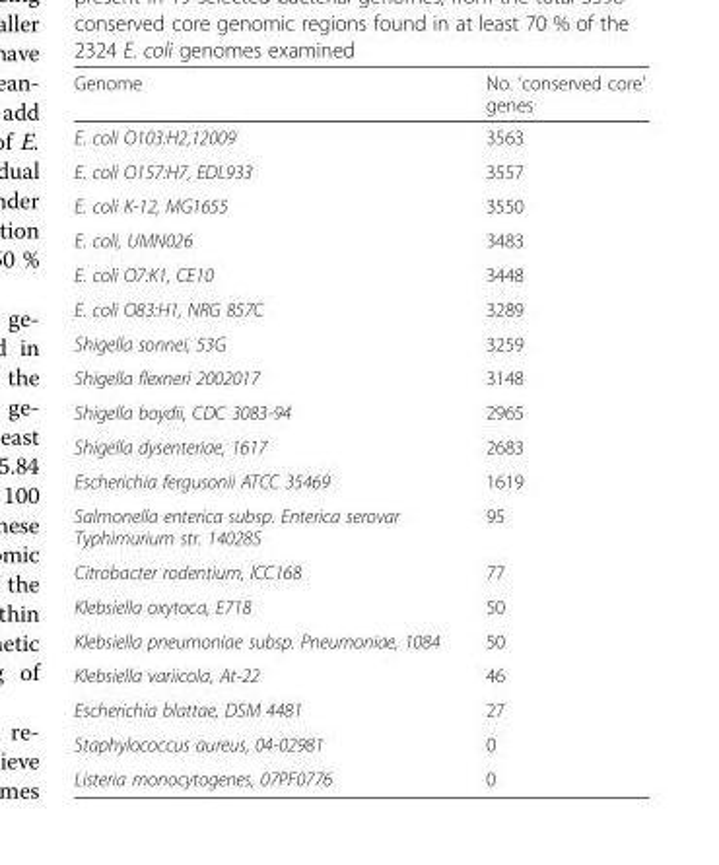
<table><thead><tr><td>Genome</td><td>No. ‘conserved core’ genes</td></tr></thead><tbody><tr><td>E. coli O103:H2,12009</td><td>3563</td></tr><tr><td>E. coli O157:H7, EDL933</td><td>3557</td></tr><tr><td>E. coli K-12, MG1655</td><td>3550</td></tr><tr><td>E. coli, UMN026</td><td>3483</td></tr><tr><td>E. coli O7:K1, CE10</td><td>3448</td></tr><tr><td>E. coli O83:H1, NRG 857C</td><td>3289</td></tr><tr><td>Shigella sonnei, 53G</td><td>3259</td></tr><tr><td>Shigella flexneri 2002017</td><td>3148</td></tr><tr><td>Shigella boydii, CDC 3083-94</td><td>2965</td></tr><tr><td>Shigella dysenteriae, 1617</td><td>2683</td></tr><tr><td>Escherichia fergusonii ATCC 35469</td><td>1619</td></tr><tr><td>Salmonella enterica subsp. Enterica serovar Typhimurium str. 14028S</td><td>95</td></tr><tr><td>Citrobacter rodentium, ICC168</td><td>77</td></tr><tr><td>Klebsiella oxytoca, E718</td><td>50</td></tr><tr><td>Klebsiella pneumoniae subsp. Pneumoniae, 1084</td><td>50</td></tr><tr><td>Klebsiella variicola, At-22</td><td>46</td></tr><tr><td>Escherichia blattae, DSM 4481</td><td>27</td></tr><tr><td>Staphylococcus aureus, 04-02981</td><td>0</td></tr><tr><td>Listeria monocytogenes, 07PF0776</td><td>0</td></tr></tbody></table>